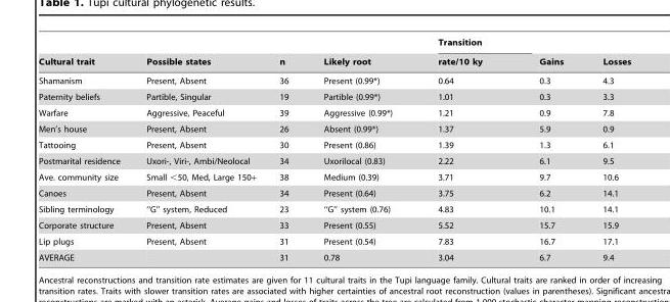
<table><thead><tr><td rowspan="2">Cultural trait</td><td rowspan="2">Possible states</td><td rowspan="2">n</td><td rowspan="2">Likely root</td><td rowspan="2">Transition rate/10 ky</td><td rowspan="2">Gains</td><td rowspan="2">Losses</td></tr><tr></tr></thead><tbody><tr><td>Shamanism</td><td>Present, Absent</td><td>36</td><td>Present (0.99*)</td><td>0.64</td><td>0.3</td><td>4.3</td></tr><tr><td>Paternity beliefs</td><td>Partible, Singular</td><td>19</td><td>Partible (0.99*)</td><td>1.01</td><td>0.3</td><td>3.3</td></tr><tr><td>Warfare</td><td>Aggressive, Peaceful</td><td>39</td><td>Aggressive (0.99*)</td><td>1.21</td><td>0.9</td><td>7.8</td></tr><tr><td>Men’s house</td><td>Present, Absent</td><td>26</td><td>Absent (0.99*)</td><td>1.37</td><td>5.9</td><td>0.9</td></tr><tr><td>Tattooing</td><td>Present, Absent</td><td>30</td><td>Present (0.86)</td><td>1.39</td><td>1.3</td><td>6.1</td></tr><tr><td>Postmarital residence</td><td>Uxori-, Viri-, Ambi/Neolocal</td><td>34</td><td>Uxorilocal (0.83)</td><td>2.22</td><td>6.1</td><td>9.5</td></tr><tr><td>Ave. community size</td><td>Small &lt;50, Med, Large 150+</td><td>38</td><td>Medium (0.39)</td><td>3.71</td><td>9.7</td><td>10.6</td></tr><tr><td>Canoes</td><td>Present, Absent</td><td>34</td><td>Present (0.64)</td><td>3.75</td><td>6.2</td><td>14.1</td></tr><tr><td>Sibling terminology</td><td>‘‘G’’ system, Reduced</td><td>23</td><td>‘‘G’’ system (0.76)</td><td>4.83</td><td>10.1</td><td>14.1</td></tr><tr><td>Corporate structure</td><td>Present, Absent</td><td>33</td><td>Present (0.55)</td><td>5.52</td><td>15.7</td><td>15.9</td></tr><tr><td>Lip plugs</td><td>Present, Absent</td><td>31</td><td>Present (0.54)</td><td>7.83</td><td>16.7</td><td>17.1</td></tr><tr><td>AVERAGE</td><td></td><td>31</td><td>0.78</td><td>3.04</td><td>6.7</td><td>9.4</td></tr></tbody></table>